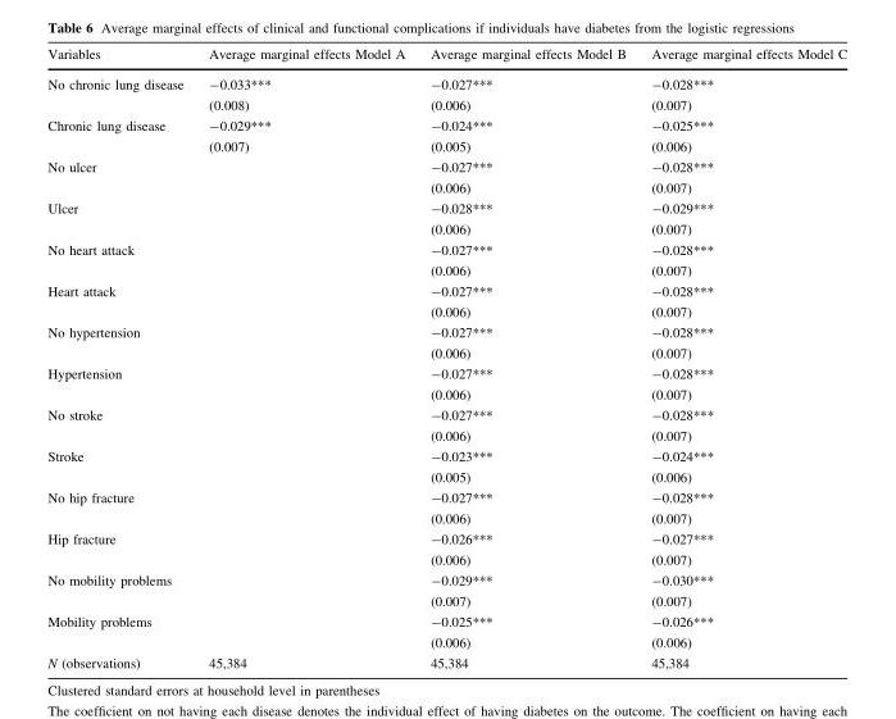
<table><thead><tr><td>Variables</td><td>Average marginal effects Model A</td><td>Average marginal effects Model B</td><td>Average marginal effects Model C</td></tr></thead><tbody><tr><td rowspan="2">No chronic lung disease</td><td>-0.033***</td><td>-0.027***</td><td>-0.028***</td></tr><tr><td>(0.008)</td><td>(0.006)</td><td>(0.007)</td></tr><tr><td rowspan="2">Chronic lung disease</td><td>-0.029***</td><td>-0.024***</td><td>-0.025***</td></tr><tr><td>(0.007)</td><td>(0.005)</td><td>(0.006)</td></tr><tr><td rowspan="2">No ulcer</td><td></td><td>-0.027***</td><td>-0.028***</td></tr><tr><td></td><td>(0.006)</td><td>(0.007)</td></tr><tr><td rowspan="2">Ulcer</td><td></td><td>-0.028***</td><td>-0.029***</td></tr><tr><td></td><td>(0.006)</td><td>(0.007)</td></tr><tr><td rowspan="2">No heart attack</td><td></td><td>-0.027***</td><td>-0.028***</td></tr><tr><td></td><td>(0.006)</td><td>(0.007)</td></tr><tr><td rowspan="2">Heart attack</td><td></td><td>-0.027***</td><td>-0.028***</td></tr><tr><td></td><td>(0.006)</td><td>(0.007)</td></tr><tr><td rowspan="2">No hypertension</td><td></td><td>-0.027***</td><td>-0.028***</td></tr><tr><td></td><td>(0.006)</td><td>(0.007)</td></tr><tr><td rowspan="2">Hypertension</td><td></td><td>-0.027***</td><td>-0.028***</td></tr><tr><td></td><td>(0.006)</td><td>(0.007)</td></tr><tr><td rowspan="2">No stroke</td><td></td><td>-0.027***</td><td>-0.028***</td></tr><tr><td></td><td>(0.006)</td><td>(0.007)</td></tr><tr><td rowspan="2">Stroke</td><td></td><td>-0.023***</td><td>-0.024***</td></tr><tr><td></td><td>(0.005)</td><td>(0.006)</td></tr><tr><td rowspan="2">No hip fracture</td><td></td><td>-0.027***</td><td>-0.028***</td></tr><tr><td></td><td>(0.006)</td><td>(0.007)</td></tr><tr><td rowspan="2">Hip fracture</td><td></td><td>-0.026***</td><td>-0.027***</td></tr><tr><td></td><td>(0.006)</td><td>(0.007)</td></tr><tr><td rowspan="2">No mobility problems</td><td></td><td>-0.029***</td><td>-0.030***</td></tr><tr><td></td><td>(0.007)</td><td>(0.007)</td></tr><tr><td rowspan="2">Mobility problems</td><td></td><td>-0.025***</td><td>-0.026***</td></tr><tr><td></td><td>(0.006)</td><td>(0.006)</td></tr><tr><td>N (observations)</td><td>45,384</td><td>45,384</td><td>45,384</td></tr></tbody></table>